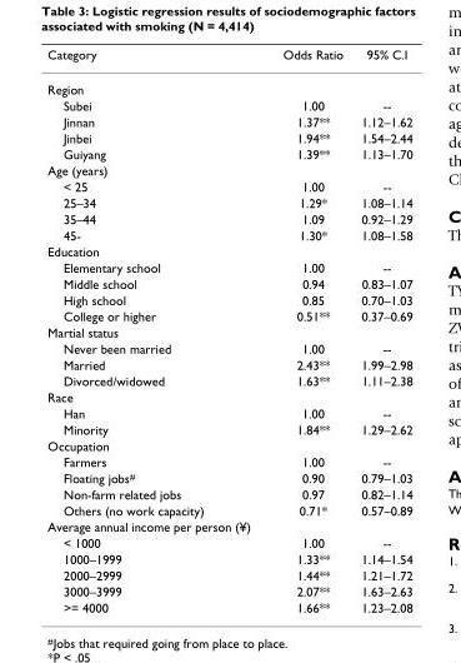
<table><thead><tr><td>Category</td><td>Odds Ratio</td><td>95% C.I</td></tr></thead><tbody><tr><td colspan="3">Region</td></tr><tr><td>Subei</td><td>1.00</td><td>--</td></tr><tr><td>Jinnan</td><td>1.37**</td><td>1.12–1.62</td></tr><tr><td>Jinbei</td><td>1.94**</td><td>1.54–2.44</td></tr><tr><td>Guiyang</td><td>1.39**</td><td>1.13–1.70</td></tr><tr><td colspan="3">Age (years)</td></tr><tr><td>&lt; 25</td><td>1.00</td><td>--</td></tr><tr><td>25–34</td><td>1.29*</td><td>1.08–1.14</td></tr><tr><td>35–44</td><td>1.09</td><td>0.92–1.29</td></tr><tr><td>45-</td><td>1.30*</td><td>1.08–1.58</td></tr><tr><td colspan="3">Education</td></tr><tr><td>Elementary school</td><td>1.00</td><td>--</td></tr><tr><td>Middle school</td><td>0.94</td><td>0.83–1.07</td></tr><tr><td>High school</td><td>0.85</td><td>0.70–1.03</td></tr><tr><td>College or higher</td><td>0.51**</td><td>0.37–0.69</td></tr><tr><td colspan="3">Martial status</td></tr><tr><td>Never been married</td><td>1.00</td><td>--</td></tr><tr><td>Married</td><td>2.43**</td><td>1.99–2.98</td></tr><tr><td>Divorced/widowed</td><td>1.63**</td><td>1.11–2.38</td></tr><tr><td colspan="3">Race</td></tr><tr><td>Han</td><td>1.00</td><td>--</td></tr><tr><td>Minority</td><td>1.84**</td><td>1.29–2.62</td></tr><tr><td colspan="3">Occupation</td></tr><tr><td>Farmers</td><td>1.00</td><td>--</td></tr><tr><td>Floating jobs<sup>#</sup></td><td>0.90</td><td>0.79–1.03</td></tr><tr><td>Non-farm related jobs</td><td>0.97</td><td>0.82–1.14</td></tr><tr><td>Others (no work capacity)</td><td>0.71*</td><td>0.57–0.89</td></tr><tr><td colspan="3">Average annual income per person (¥)</td></tr><tr><td>&lt; 1000</td><td>1.00</td><td>--</td></tr><tr><td>1000–1999</td><td>1.33**</td><td>1.14–1.54</td></tr><tr><td>2000–2999</td><td>1.44**</td><td>1.21–1.72</td></tr><tr><td>3000–3999</td><td>2.07**</td><td>1.63–2.63</td></tr><tr><td>&gt;= 4000</td><td>1.66**</td><td>1.23–2.08</td></tr></tbody></table>